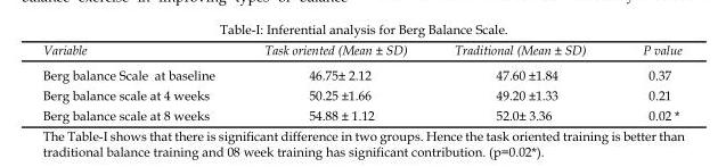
<table><thead><tr><td>Variable</td><td>Task oriented (Mean ± SD)</td><td>Traditional (Mean ± SD)</td><td>P value</td></tr></thead><tbody><tr><td>Berg balance Scale at baseline</td><td>46.75± 2.12</td><td>47.60 ±1.84</td><td>0.37</td></tr><tr><td>Berg balance scale at 4 weeks</td><td>50.25 ±1.66</td><td>49.20 ±1.33</td><td>0.21</td></tr><tr><td>Berg balance scale at 8 weeks</td><td>54.88 ± 1.12</td><td>52.0± 3.36</td><td>0.02 *</td></tr></tbody></table>